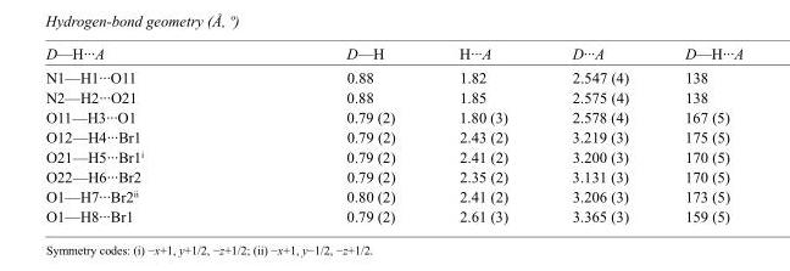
<table><tbody><tr><td>D—H···A</td><td>D—H</td><td>H···A</td><td>D···A</td><td>D—H···A</td></tr><tr><td>N1—H1···O11</td><td>0.88</td><td>1.82</td><td>2.547 (4)</td><td>138</td></tr><tr><td>N2—H2···O21</td><td>0.88</td><td>1.85</td><td>2.575 (4)</td><td>138</td></tr><tr><td>O11—H3···O1</td><td>0.79 (2)</td><td>1.80 (3)</td><td>2.578 (4)</td><td>167 (5)</td></tr><tr><td>O12—H4···Br1</td><td>0.79 (2)</td><td>2.43 (2)</td><td>3.219 (3)</td><td>175 (5)</td></tr><tr><td>O21—H5···Br1<sup>i</sup></td><td>0.79 (2)</td><td>2.41 (2)</td><td>3.200 (3)</td><td>170 (5)</td></tr><tr><td>O22—H6···Br2</td><td>0.79 (2)</td><td>2.35 (2)</td><td>3.131 (3)</td><td>170 (5)</td></tr><tr><td>O1—H7···Br2<sup>ii</sup></td><td>0.80 (2)</td><td>2.41 (2)</td><td>3.206 (3)</td><td>173 (5)</td></tr><tr><td>O1—H8···Br1</td><td>0.79 (2)</td><td>2.61 (3)</td><td>3.365 (3)</td><td>159 (5)</td></tr></tbody></table>